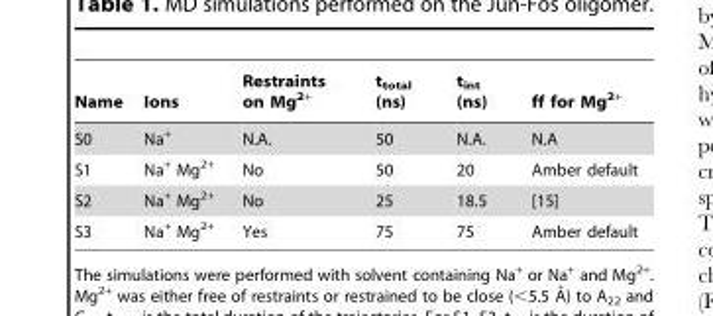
<table><thead><tr><td>Name</td><td>Ions</td><td>Restraints on Mg<sup>2+</sup></td><td>t<sub>total</sub> (ns)</td><td>t<sub>int</sub> (ns)</td><td>ff for Mg<sup>2+</sup></td></tr></thead><tbody><tr><td>S0</td><td>Na<sup>+</sup></td><td>N.A.</td><td>50</td><td>N.A.</td><td>N.A</td></tr><tr><td>S1</td><td>Na<sup>+</sup> Mg<sup>2+</sup></td><td>No</td><td>50</td><td>20</td><td>Amber default</td></tr><tr><td>S2</td><td>Na<sup>+</sup> Mg<sup>2+</sup></td><td>No</td><td>25</td><td>18.5</td><td>[15]</td></tr><tr><td>S3</td><td>Na<sup>+</sup> Mg<sup>2+</sup></td><td>Yes</td><td>75</td><td>75</td><td>Amber default</td></tr></tbody></table>